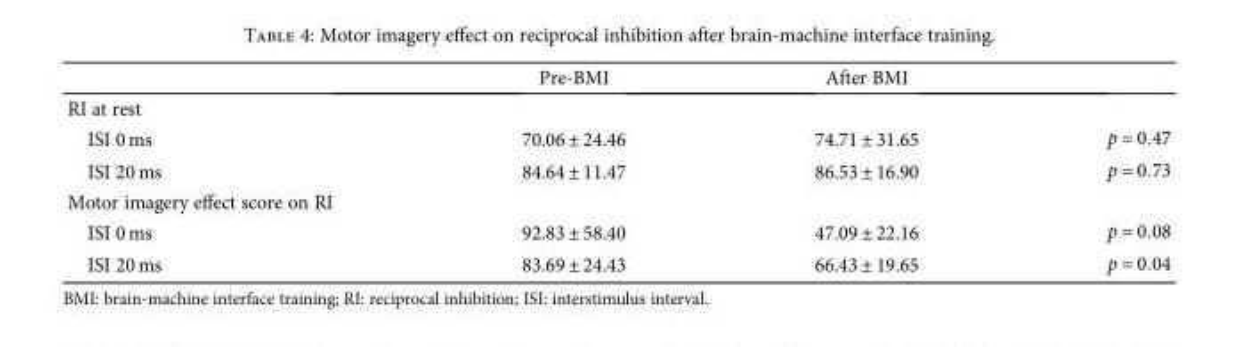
<table><thead><tr><td></td><td>Pre-BMI</td><td>After BMI</td><td></td></tr></thead><tbody><tr><td colspan="4">RI at rest</td></tr><tr><td>ISI 0 ms</td><td>70.06 ± 24.46</td><td>74.71 ± 31.65</td><td>p = 0 47</td></tr><tr><td>ISI 20 ms</td><td>84.64 ± 11.47</td><td>86.53 ± 16.90</td><td>p = 0 73</td></tr><tr><td colspan="4">Motor imagery effect score on RI</td></tr><tr><td>ISI 0 ms</td><td>92.83 ± 58.40</td><td>47.09 ± 22.16</td><td>p = 0 08</td></tr><tr><td>ISI 20 ms</td><td>83.69 ± 24.43</td><td>66.43 ± 19.65</td><td>p = 0 04</td></tr></tbody></table>